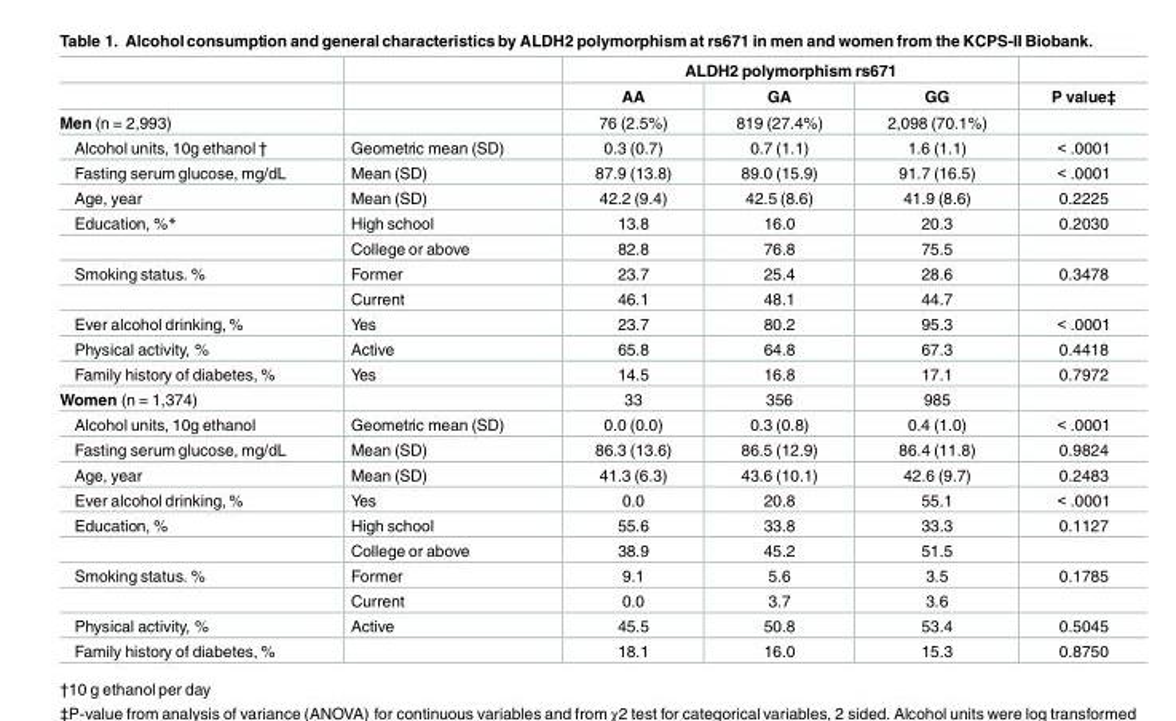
<table><thead><tr><td rowspan="2"></td><td rowspan="2"></td><td colspan="3">ALDH2 polymorphism rs671</td><td rowspan="2">P value‡</td></tr><tr><td>AA</td><td>GA</td><td>GG</td></tr></thead><tbody><tr><td>Men (n = 2,993)</td><td></td><td>76 (2.5%)</td><td>819 (27.4%)</td><td>2,098 (70.1%)</td><td></td></tr><tr><td>Alcohol units, 10g ethanol †</td><td>Geometric mean (SD)</td><td>0.3 (0.7)</td><td>0.7 (1.1)</td><td>1.6 (1.1)</td><td>&lt; .0001</td></tr><tr><td>Fasting serum glucose, mg/dL</td><td>Mean (SD)</td><td>87.9 (13.8)</td><td>89.0 (15.9)</td><td>91.7 (16.5)</td><td>&lt; .0001</td></tr><tr><td>Age, year</td><td>Mean (SD)</td><td>42.2 (9.4)</td><td>42.5 (8.6)</td><td>41.9 (8.6)</td><td>0.2225</td></tr><tr><td rowspan="2">Education, %*</td><td>High school</td><td>13.8</td><td>16.0</td><td>20.3</td><td>0.2030</td></tr><tr><td>College or above</td><td>82.8</td><td>76.8</td><td>75.5</td><td></td></tr><tr><td rowspan="2">Smoking status. %</td><td>Former</td><td>23.7</td><td>25.4</td><td>28.6</td><td>0.3478</td></tr><tr><td>Current</td><td>46.1</td><td>48.1</td><td>44.7</td><td></td></tr><tr><td>Ever alcohol drinking, %</td><td>Yes</td><td>23.7</td><td>80.2</td><td>95.3</td><td>&lt; .0001</td></tr><tr><td>Physical activity, %</td><td>Active</td><td>65.8</td><td>64.8</td><td>67.3</td><td>0.4418</td></tr><tr><td>Family history of diabetes, %</td><td>Yes</td><td>14.5</td><td>16.8</td><td>17.1</td><td>0.7972</td></tr><tr><td>Women (n = 1,374)</td><td></td><td>33</td><td>356</td><td>985</td><td></td></tr><tr><td>Alcohol units, 10g ethanol</td><td>Geometric mean (SD)</td><td>0.0 (0.0)</td><td>0.3 (0.8)</td><td>0.4 (1.0)</td><td>&lt; .0001</td></tr><tr><td>Fasting serum glucose, mg/dL</td><td>Mean (SD)</td><td>86.3 (13.6)</td><td>86.5 (12.9)</td><td>86.4 (11.8)</td><td>0.9824</td></tr><tr><td>Age, year</td><td>Mean (SD)</td><td>41.3 (6.3)</td><td>43.6 (10.1)</td><td>42.6 (9.7)</td><td>0.2483</td></tr><tr><td>Ever alcohol drinking, %</td><td>Yes</td><td>0.0</td><td>20.8</td><td>55.1</td><td>&lt; .0001</td></tr><tr><td rowspan="2">Education, %</td><td>High school</td><td>55.6</td><td>33.8</td><td>33.3</td><td>0.1127</td></tr><tr><td>College or above</td><td>38.9</td><td>45.2</td><td>51.5</td><td></td></tr><tr><td rowspan="2">Smoking status. %</td><td>Former</td><td>9.1</td><td>5.6</td><td>3.5</td><td>0.1785</td></tr><tr><td>Current</td><td>0.0</td><td>3.7</td><td>3.6</td><td></td></tr><tr><td>Physical activity, %</td><td>Active</td><td>45.5</td><td>50.8</td><td>53.4</td><td>0.5045</td></tr><tr><td>Family history of diabetes, %</td><td></td><td>18.1</td><td>16.0</td><td>15.3</td><td>0.8750</td></tr></tbody></table>